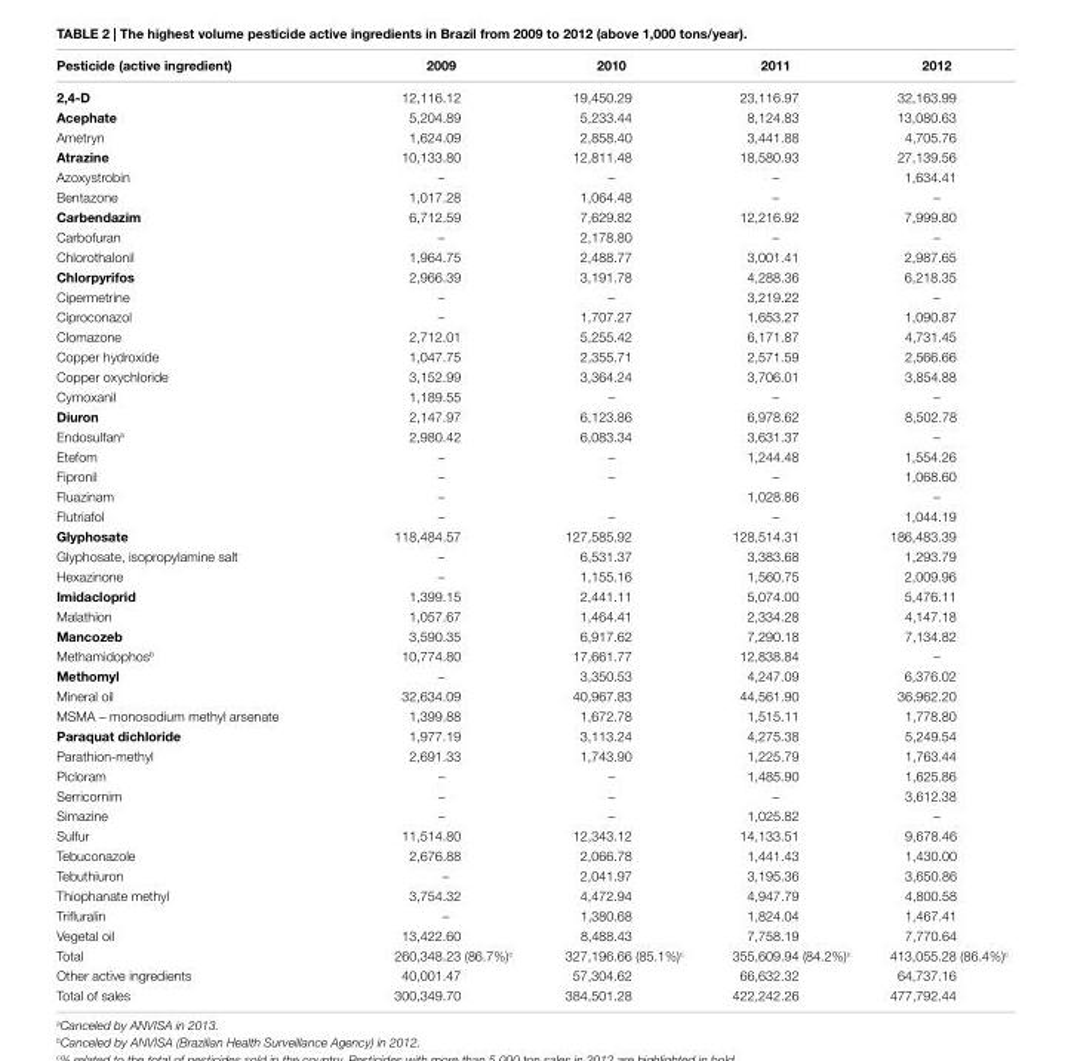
<table><thead><tr><td>Pesticide (active ingredient)</td><td>2009</td><td>2010</td><td>2011</td><td>2012</td></tr></thead><tbody><tr><td>2,4-D</td><td>12,116.12</td><td>19,450.29</td><td>23,116.97</td><td>32,163.99</td></tr><tr><td>acephate</td><td>5,204.89</td><td>5,233.44</td><td>8,124.83</td><td>13,080.63</td></tr><tr><td>Ametryn</td><td>1,624.09</td><td>2,858.40</td><td>3,441.88</td><td>4,705.76</td></tr><tr><td>atrazine</td><td>10,133.80</td><td>12,811.48</td><td>18,580.93</td><td>27,139.56</td></tr><tr><td>Azoxystrobin</td><td>–</td><td>–</td><td>–</td><td>1,634.41</td></tr><tr><td>Bentazone</td><td>1,017.28</td><td>1,064.48</td><td>–</td><td>–</td></tr><tr><td>carbendazim</td><td>6,712.59</td><td>7,629.82</td><td>12,216.92</td><td>7,999.80</td></tr><tr><td>Carbofuran</td><td>–</td><td>2,178.80</td><td>–</td><td>–</td></tr><tr><td>Chlorothalonil</td><td>1,964.75</td><td>2,488.77</td><td>3,001.41</td><td>2,987.65</td></tr><tr><td>chlorpyrifos</td><td>2,966.39</td><td>3,191.78</td><td>4,288.36</td><td>6,218.35</td></tr><tr><td>Cipermetrine</td><td>–</td><td>–</td><td>3,219.22</td><td>–</td></tr><tr><td>Ciproconazol</td><td>–</td><td>1,707.27</td><td>1,653.27</td><td>1,090.87</td></tr><tr><td>Clomazone</td><td>2,712.01</td><td>5,255.42</td><td>6,171.87</td><td>4,731.45</td></tr><tr><td>Copper hydroxide</td><td>1,047.75</td><td>2,355.71</td><td>2,571.59</td><td>2,566.66</td></tr><tr><td>Copper oxychloride</td><td>3,152.99</td><td>3,364.24</td><td>3,706.01</td><td>3,854.88</td></tr><tr><td>Cymoxanil</td><td>1,189.55</td><td>–</td><td>–</td><td>–</td></tr><tr><td>Diuron</td><td>2,147.97</td><td>6,123.86</td><td>6,978.62</td><td>8,502.78</td></tr><tr><td>Endosulfan<sup>a</sup></td><td>2,980.42</td><td>6,083.34</td><td>3,631.37</td><td>–</td></tr><tr><td>Etefom</td><td>–</td><td>–</td><td>1,244.48</td><td>1,554.26</td></tr><tr><td>Fipronil</td><td>–</td><td>–</td><td>–</td><td>1,068.60</td></tr><tr><td>Fluazinam</td><td>–</td><td></td><td>1,028.86</td><td>–</td></tr><tr><td>Flutriafol</td><td>–</td><td>–</td><td>–</td><td>1,044.19</td></tr><tr><td>glyphosate</td><td>118,484.57</td><td>127,585.92</td><td>128,514.31</td><td>186,483.39</td></tr><tr><td>Glyphosate, isopropylamine salt</td><td>–</td><td>6,531.37</td><td>3,383.68</td><td>1,293.79</td></tr><tr><td>Hexazinone</td><td>–</td><td>1,155.16</td><td>1,560.75</td><td>2,009.96</td></tr><tr><td>imidacloprid</td><td>1,399.15</td><td>2,441.11</td><td>5,074.00</td><td>5,476.11</td></tr><tr><td>Malathion</td><td>1,057.67</td><td>1,464.41</td><td>2,334.28</td><td>4,147.18</td></tr><tr><td>Mancozeb</td><td>3,590.35</td><td>6,917.62</td><td>7,290.18</td><td>7,134.82</td></tr><tr><td>Methamidophos<sup>b</sup></td><td>10,774.80</td><td>17,661.77</td><td>12,838.84</td><td>–</td></tr><tr><td>Methomyl</td><td>–</td><td>3,350.53</td><td>4,247.09</td><td>6,376.02</td></tr><tr><td>Mineral oil</td><td>32,634.09</td><td>40,967.83</td><td>44,561.90</td><td>36,962.20</td></tr><tr><td>MSMA – monosodium methyl arsenate</td><td>1,399.88</td><td>1,672.78</td><td>1,515.11</td><td>1,778.80</td></tr><tr><td>Paraquat dichloride</td><td>1,977.19</td><td>3,113.24</td><td>4,275.38</td><td>5,249.54</td></tr><tr><td>Parathion-methyl</td><td>2,691.33</td><td>1,743.90</td><td>1,225.79</td><td>1,763.44</td></tr><tr><td>Picloram</td><td>–</td><td>–</td><td>1,485.90</td><td>1,625.86</td></tr><tr><td>Serricornim</td><td>–</td><td>–</td><td>–</td><td>3,612.38</td></tr><tr><td>Simazine</td><td>–</td><td>–</td><td>1,025.82</td><td>–</td></tr><tr><td>Sulfur</td><td>11,514.80</td><td>12,343.12</td><td>14,133.51</td><td>9,678.46</td></tr><tr><td>Tebuconazole</td><td>2,676.88</td><td>2,066.78</td><td>1,441.43</td><td>1,430.00</td></tr><tr><td>Tebuthiuron</td><td>–</td><td>2,041.97</td><td>3,195.36</td><td>3,650.86</td></tr><tr><td>Thiophanate methyl</td><td>3,754.32</td><td>4,472.94</td><td>4,947.79</td><td>4,800.58</td></tr><tr><td>Trifluralin</td><td>–</td><td>1,380.68</td><td>1,824.04</td><td>1,467.41</td></tr><tr><td>Vegetal oil</td><td>13,422.60</td><td>8,488.43</td><td>7,758.19</td><td>7,770.64</td></tr><tr><td>Total</td><td>260,348.23 (86.7%)<sup>c</sup></td><td>327,196.66 (85.1%)<sup>c</sup></td><td>355,609.94 (84.2%)<sup>c</sup></td><td>413,055.28 (86.4%)<sup>c</sup></td></tr><tr><td>Other active ingredients</td><td>40,001.47</td><td>57,304.62</td><td>66,632.32</td><td>64,737.16</td></tr><tr><td>Total of sales</td><td>300,349.70</td><td>384,501.28</td><td>422,242.26</td><td>477,792.44</td></tr></tbody></table>